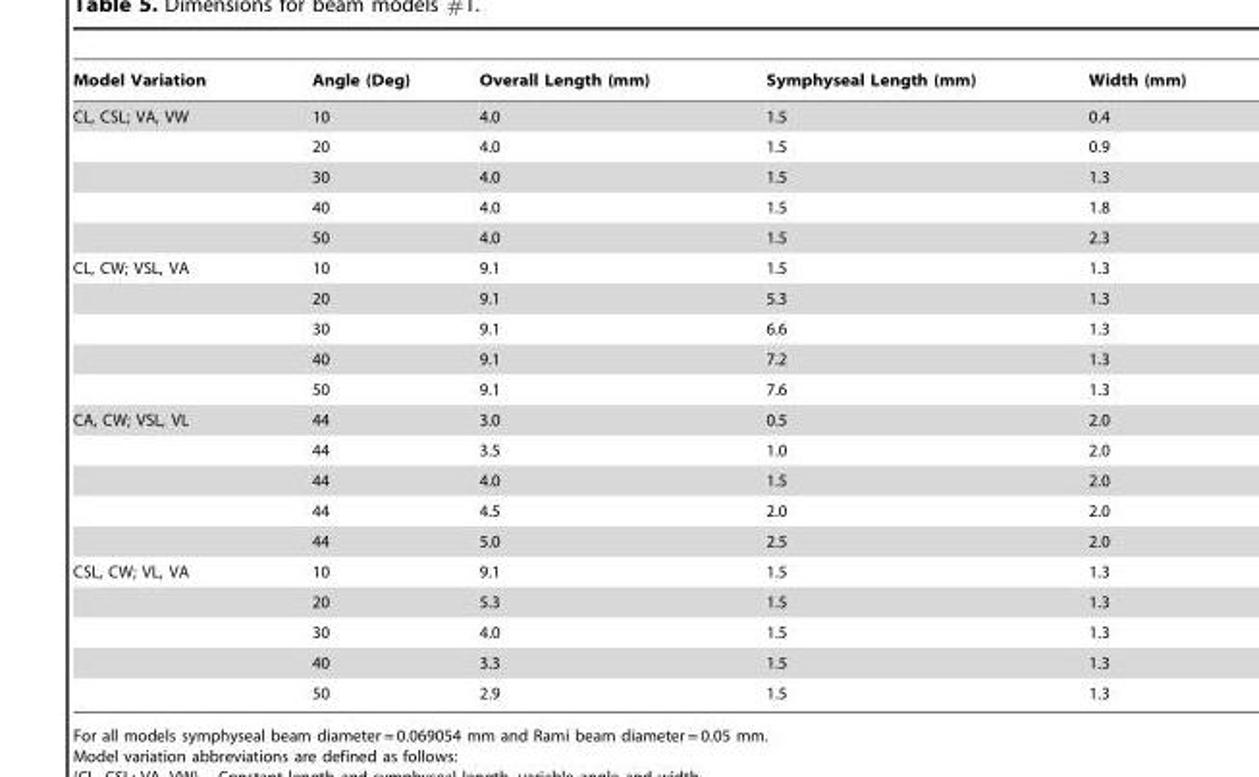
<table><thead><tr><td>Model Variation</td><td>Angle (Deg)</td><td>Overall Length (mm)</td><td>Symphyseal Length (mm)</td><td>Width (mm)</td></tr></thead><tbody><tr><td rowspan="5">CL, CSL; VA, VW</td><td>10</td><td>4.0</td><td>1.5</td><td>0.4</td></tr><tr><td>20</td><td>4.0</td><td>1.5</td><td>0.9</td></tr><tr><td>30</td><td>4.0</td><td>1.5</td><td>1.3</td></tr><tr><td>40</td><td>4.0</td><td>1.5</td><td>1.8</td></tr><tr><td>50</td><td>4.0</td><td>1.5</td><td>2.3</td></tr><tr><td rowspan="5">CL, CW; VSL, VA</td><td>10</td><td>9.1</td><td>1.5</td><td>1.3</td></tr><tr><td>20</td><td>9.1</td><td>5.3</td><td>1.3</td></tr><tr><td>30</td><td>9.1</td><td>6.6</td><td>1.3</td></tr><tr><td>40</td><td>9.1</td><td>7.2</td><td>1.3</td></tr><tr><td>50</td><td>9.1</td><td>7.6</td><td>1.3</td></tr><tr><td rowspan="5">CA, CW; VSL, VL</td><td>44</td><td>3.0</td><td>0.5</td><td>2.0</td></tr><tr><td>44</td><td>3.5</td><td>1.0</td><td>2.0</td></tr><tr><td>44</td><td>4.0</td><td>1.5</td><td>2.0</td></tr><tr><td>44</td><td>4.5</td><td>2.0</td><td>2.0</td></tr><tr><td>44</td><td>5.0</td><td>2.5</td><td>2.0</td></tr><tr><td rowspan="5">CSL, CW; VL, VA</td><td>10</td><td>9.1</td><td>1.5</td><td>1.3</td></tr><tr><td>20</td><td>5.3</td><td>1.5</td><td>1.3</td></tr><tr><td>30</td><td>4.0</td><td>1.5</td><td>1.3</td></tr><tr><td>40</td><td>3.3</td><td>1.5</td><td>1.3</td></tr><tr><td>50</td><td>2.9</td><td>1.5</td><td>1.3</td></tr></tbody></table>